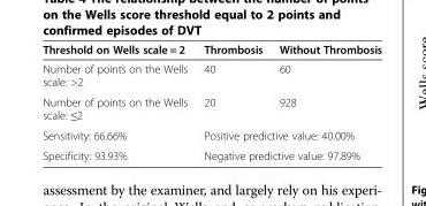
<table><thead><tr><td>Threshold on Wells scale = 2</td><td>Thrombosis</td><td>Without Thrombosis</td></tr></thead><tbody><tr><td>Number of points on the Wells scale: &gt;2</td><td>40</td><td>60</td></tr><tr><td>Number of points on the Wells scale: ≤2</td><td>20</td><td>928</td></tr><tr><td>Sensitivity: 66.66%</td><td colspan="2">Positive predictive value: 40.00%</td></tr><tr><td>Specificity: 93.93%</td><td colspan="2">Negative predictive value: 97.89%</td></tr></tbody></table>